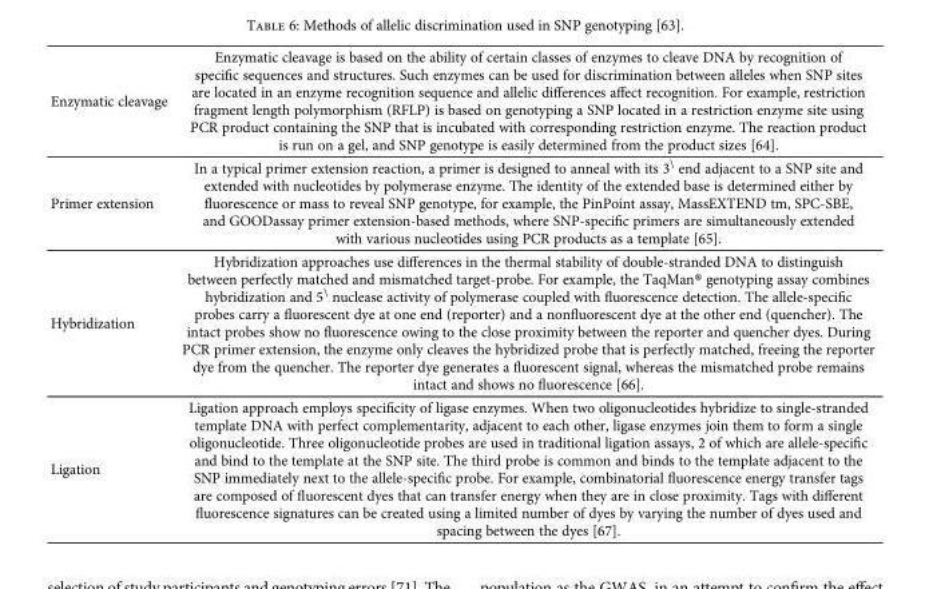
<table><tbody><tr><td>Enzymatic cleavage</td><td>Enzymatic cleavage is based on the ability of certain classes of enzymes to cleave DNA by recognition of specific sequences and structures. Such enzymes can be used for discrimination between alleles when SNP sites are located in an enzyme recognition sequence and allelic differences affect recognition. For example, restriction fragment length polymorphism (RFLP) is based on genotyping a SNP located in a restriction enzyme site using PCR product containing the SNP that is incubated with corresponding restriction enzyme. The reaction product is run on a gel, and SNP genotype is easily determined from the product sizes [64].</td></tr><tr><td>Primer extension</td><td>In a typical primer extension reaction, a primer is designed to anneal with its 3<sup>\</sup> end adjacent to a SNP site and extended with nucleotides by polymerase enzyme. The identity of the extended base is determined either by fluorescence or mass to reveal SNP genotype, for example, the PinPoint assay, MassEXTEND tm, SPC-SBE, and GOODassay primer extension-based methods, where SNP-specific primers are simultaneously extended with various nucleotides using PCR products as a template [65].</td></tr><tr><td>Hybridization</td><td>Hybridization approaches use differences in the thermal stability of double-stranded DNA to distinguish between perfectly matched and mismatched target-probe. For example, the TaqMan® genotyping assay combines hybridization and 5<sup>\</sup> nuclease activity of polymerase coupled with fluorescence detection. The allele-specific probes carry a fluorescent dye at one end (reporter) and a nonfluorescent dye at the other end (quencher). The intact probes show no fluorescence owing to the close proximity between the reporter and quencher dyes. During PCR primer extension, the enzyme only cleaves the hybridized probe that is perfectly matched, freeing the reporter dye from the quencher. The reporter dye generates a fluorescent signal, whereas the mismatched probe remains intact and shows no fluorescence [66].</td></tr><tr><td>Ligation</td><td>Ligation approach employs specificity of ligase enzymes. When two oligonucleotides hybridize to single-stranded template DNA with perfect complementarity, adjacent to each other, ligase enzymes join them to form a single oligonucleotide. Three oligonucleotide probes are used in traditional ligation assays, 2 of which are allele-specific and bind to the template at the SNP site. The third probe is common and binds to the template adjacent to the SNP immediately next to the allele-specific probe. For example, combinatorial fluorescence energy transfer tags are composed of fluorescent dyes that can transfer energy when they are in close proximity. Tags with different fluorescence signatures can be created using a limited number of dyes by varying the number of dyes used and spacing between the dyes [67].</td></tr></tbody></table>